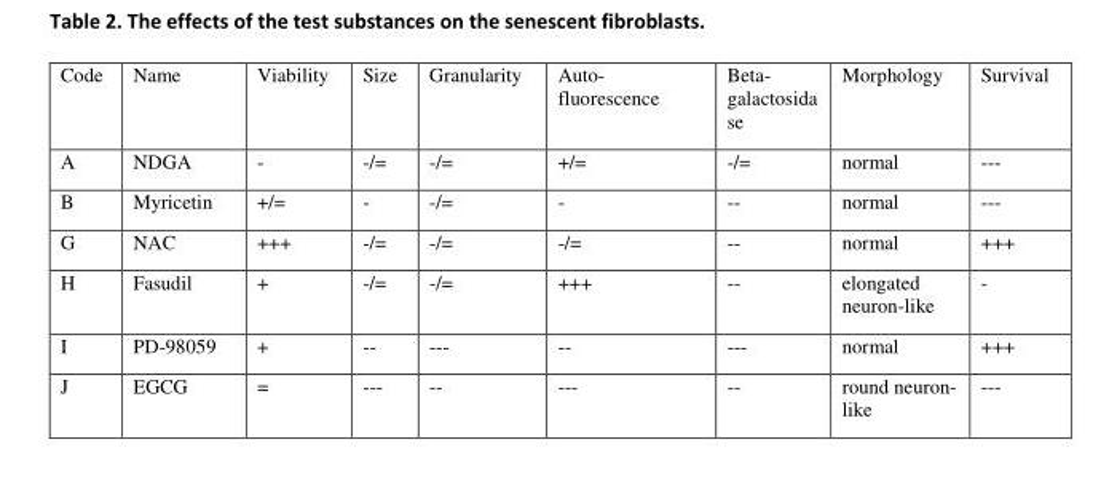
<table><thead><tr><td>Code</td><td>Name</td><td>Viability</td><td>Size</td><td>Granularity</td><td>Auto- fluorescence</td><td>Beta- galactosida se</td><td>Morphology</td><td>Survival</td></tr></thead><tbody><tr><td>A</td><td>NDGA</td><td>-</td><td>-/=</td><td>-/=</td><td>+/=</td><td>-/=</td><td>normal</td><td>---</td></tr><tr><td>B</td><td>Myricetin</td><td>+/=</td><td>-</td><td>-/=</td><td>-</td><td>--</td><td>normal</td><td>---</td></tr><tr><td>G</td><td>NAC</td><td>+++</td><td>-/=</td><td>-/=</td><td>-/=</td><td>--</td><td>normal</td><td>+++</td></tr><tr><td>H</td><td>Fasudil</td><td>+</td><td>-/=</td><td>-/=</td><td>+++</td><td>--</td><td>elongated neuron-like</td><td>-</td></tr><tr><td>I</td><td>PD-98059</td><td>+</td><td>--</td><td>---</td><td>--</td><td>---</td><td>normal</td><td>+++</td></tr><tr><td>J</td><td>EGCG</td><td>=</td><td>---</td><td>--</td><td>---</td><td>--</td><td>round neuron- like</td><td>---</td></tr></tbody></table>